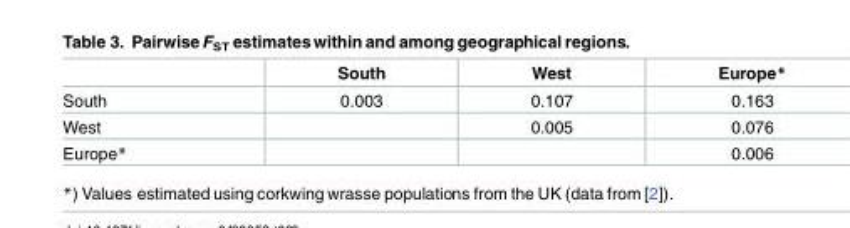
<table><thead><tr><td></td><td>South</td><td>West</td><td>Europe*</td></tr></thead><tbody><tr><td>South</td><td>0.003</td><td>0.107</td><td>0.163</td></tr><tr><td>West</td><td></td><td>0.005</td><td>0.076</td></tr><tr><td>Europe*</td><td></td><td></td><td>0.006</td></tr></tbody></table>